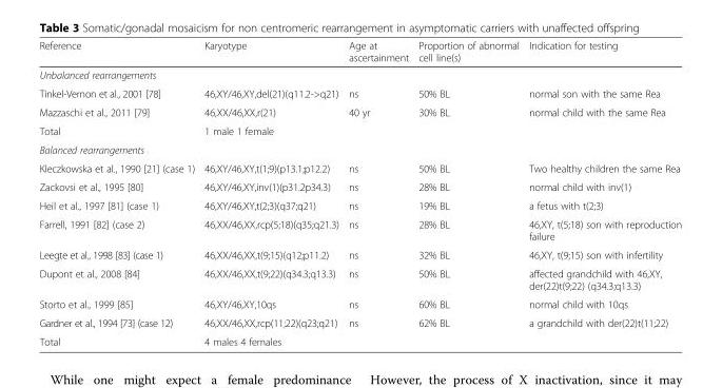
<table><thead><tr><td>Reference</td><td>Karyotype</td><td>Age at ascertainment</td><td>Proportion of abnormal cell line(s)</td><td>Indication for testing</td></tr></thead><tbody><tr><td colspan="5">Unbalanced rearrangements</td></tr><tr><td>Tinkel-Vernon et al., 2001 [78]</td><td>46,XY/46,XY,del(21)(q11.2-&gt;q21)</td><td>ns</td><td>50% BL</td><td>normal son with the same Rea</td></tr><tr><td>Mazzaschi et al., 2011 [79]</td><td>46,XX/46,XX,r(21)</td><td>40 yr</td><td>30% BL</td><td>normal child with the same Rea</td></tr><tr><td>Total</td><td>1 male 1 female</td><td></td><td></td><td></td></tr><tr><td colspan="5">Balanced rearrangements</td></tr><tr><td>Kleczkowska et al., 1990 [21] (case 1)</td><td>46,XY/46,XY,t(1;9)(p13.1;p12.2)</td><td>ns</td><td>50% BL</td><td>Two healthy children the same Rea</td></tr><tr><td>Zackovsi et al., 1995 [80]</td><td>46,XY/46,XY,inv(1)(p31.2p34.3)</td><td>ns</td><td>28% BL</td><td>normal child with inv(1)</td></tr><tr><td>Heil et al., 1997 [81] (case 1)</td><td>46,XY/46,XY,t(2;3)(q37;q21)</td><td>ns</td><td>19% BL</td><td>a fetus with t(2;3)</td></tr><tr><td>Farrell, 1991 [82] (case 2)</td><td>46,XX/46,XX,rcp(5;18)(q35;q21.3)</td><td>ns</td><td>28% BL</td><td>46,XY, t(5;18) son with reproduction failure</td></tr><tr><td>Leegte et al., 1998 [83] (case 1)</td><td>46,XX/46,XX,t(9;15)(q12;p11.2)</td><td>ns</td><td>32% BL</td><td>46,XY, t(9;15) son with infertility</td></tr><tr><td>Dupont et al., 2008 [84]</td><td>46,XX/46,XX,t(9;22)(q34.3;q13.3)</td><td>ns</td><td>50% BL</td><td>affected grandchild with 46,XY, der(22)t(9;22) (q34.3;q13.3)</td></tr><tr><td>Storto et al., 1999 [85]</td><td>46,XY/46,XY,10qs</td><td>ns</td><td>60% BL</td><td>normal child with 10qs</td></tr><tr><td>Gardner et al., 1994 [73] (case 12)</td><td>46,XX/46,XX,rcp(11;22)(q23;q21)</td><td>ns</td><td>62% BL</td><td>a grandchild with der(22)t(11;22)</td></tr><tr><td>Total</td><td>4 males 4 females</td><td></td><td></td><td></td></tr></tbody></table>